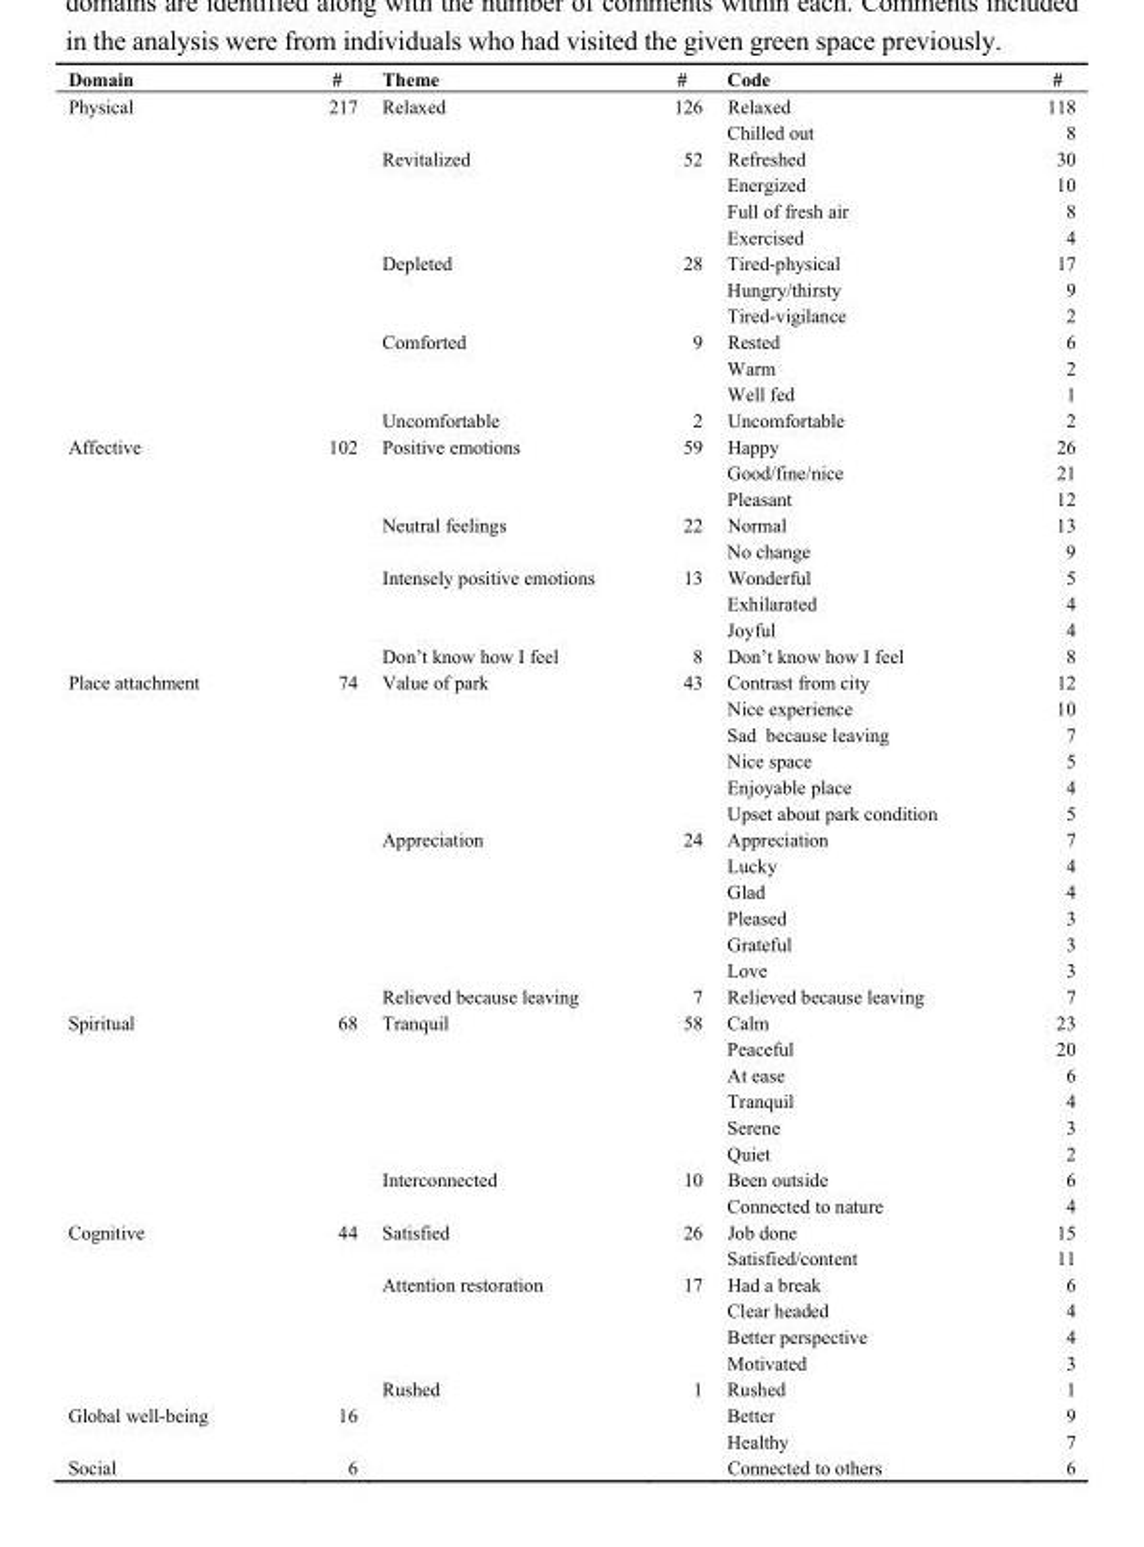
<table><thead><tr><td>Domain</td><td>#</td><td>Theme</td><td>#</td><td>Code</td><td>#</td></tr></thead><tbody><tr><td rowspan="13">Physical</td><td>217</td><td>Relaxed</td><td>126</td><td>Relaxed</td><td>118</td></tr><tr><td></td><td></td><td></td><td>Chilled out</td><td>8</td></tr><tr><td></td><td>Revitalized</td><td>52</td><td>Refreshed</td><td>30</td></tr><tr><td></td><td></td><td></td><td>Energized</td><td>10</td></tr><tr><td></td><td></td><td></td><td>Full of fresh air</td><td>8</td></tr><tr><td></td><td></td><td></td><td>Exercised</td><td>4</td></tr><tr><td></td><td>Depleted</td><td>28</td><td>Tired-physical</td><td>17</td></tr><tr><td></td><td></td><td></td><td>Hungry/thirsty</td><td>9</td></tr><tr><td></td><td></td><td></td><td>Tired-vigilance</td><td>2</td></tr><tr><td></td><td>Comforted</td><td>9</td><td>Rested</td><td>6</td></tr><tr><td></td><td></td><td></td><td>Warm</td><td>2</td></tr><tr><td></td><td></td><td></td><td>Well fed</td><td>1</td></tr><tr><td></td><td>Uncomfortable</td><td>2</td><td>Uncomfortable</td><td>2</td></tr><tr><td rowspan="9">Affective</td><td>102</td><td>Positive emotions</td><td>59</td><td>Happy</td><td>26</td></tr><tr><td></td><td></td><td></td><td>Good/fine/nice</td><td>21</td></tr><tr><td></td><td></td><td></td><td>Pleasant</td><td>12</td></tr><tr><td></td><td>Neutral feelings</td><td>22</td><td>Normal</td><td>13</td></tr><tr><td></td><td></td><td></td><td>No change</td><td>9</td></tr><tr><td></td><td>Intensely positive emotions</td><td>13</td><td>Wonderful</td><td>5</td></tr><tr><td></td><td></td><td></td><td>Exhilarated</td><td>4</td></tr><tr><td></td><td></td><td></td><td>Joyful</td><td>4</td></tr><tr><td></td><td>Don’t know how I feel</td><td>8</td><td>Don’t know how I feel</td><td>8</td></tr><tr><td rowspan="13">Place attachment</td><td>74</td><td>Value of park</td><td>43</td><td>Contrast from city</td><td>12</td></tr><tr><td></td><td></td><td></td><td>Nice experience</td><td>10</td></tr><tr><td></td><td></td><td></td><td>Sad because leaving</td><td>7</td></tr><tr><td></td><td></td><td></td><td>Nice space</td><td>5</td></tr><tr><td></td><td></td><td></td><td>Enjoyable place</td><td>4</td></tr><tr><td></td><td></td><td></td><td>Upset about park condition</td><td>5</td></tr><tr><td></td><td>Appreciation</td><td>24</td><td>Appreciation</td><td>7</td></tr><tr><td></td><td></td><td></td><td>Lucky</td><td>4</td></tr><tr><td></td><td></td><td></td><td>Glad</td><td>4</td></tr><tr><td></td><td></td><td></td><td>Pleased</td><td>3</td></tr><tr><td></td><td></td><td></td><td>Grateful</td><td>3</td></tr><tr><td></td><td></td><td></td><td>Love</td><td>3</td></tr><tr><td></td><td>Relieved because leaving</td><td>7</td><td>Relieved because leaving</td><td>7</td></tr><tr><td rowspan="8">Spiritual</td><td>68</td><td>Tranquil</td><td>58</td><td>Calm</td><td>23</td></tr><tr><td></td><td></td><td></td><td>Peaceful</td><td>20</td></tr><tr><td></td><td></td><td></td><td>At ease</td><td>6</td></tr><tr><td></td><td></td><td></td><td>Tranquil</td><td>4</td></tr><tr><td></td><td></td><td></td><td>Serene</td><td>3</td></tr><tr><td></td><td></td><td></td><td>Quiet</td><td>2</td></tr><tr><td></td><td>Interconnected</td><td>10</td><td>Been outside</td><td>6</td></tr><tr><td></td><td></td><td></td><td>Connected to nature</td><td>4</td></tr><tr><td rowspan="7">Cognitive</td><td>44</td><td>Satisfied</td><td>26</td><td>Job done</td><td>15</td></tr><tr><td></td><td></td><td></td><td>Satisfied/content</td><td>11</td></tr><tr><td></td><td>Attention restoration</td><td>17</td><td>Had a break</td><td>6</td></tr><tr><td></td><td></td><td></td><td>Clear headed</td><td>4</td></tr><tr><td></td><td></td><td></td><td>Better perspective</td><td>4</td></tr><tr><td></td><td></td><td></td><td>Motivated</td><td>3</td></tr><tr><td></td><td>Rushed</td><td>1</td><td>Rushed</td><td>1</td></tr><tr><td rowspan="2">Global well-being</td><td>16</td><td></td><td></td><td>Better</td><td>9</td></tr><tr><td></td><td></td><td></td><td>Healthy</td><td>7</td></tr><tr><td>Social</td><td>6</td><td></td><td></td><td>Connected to others</td><td>6</td></tr></tbody></table>